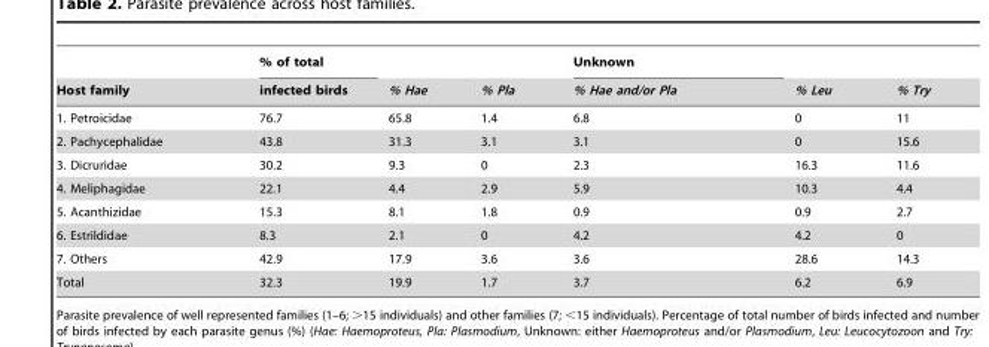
<table><thead><tr><td rowspan="2">Host family</td><td rowspan="2">% of total infected birds</td><td rowspan="2">% Hae</td><td rowspan="2">% Pla</td><td rowspan="2">Unknown % Hae and/or Pla</td><td rowspan="2">% Leu</td><td rowspan="2">% Try</td></tr><tr></tr></thead><tbody><tr><td>1. Petroicidae</td><td>76.7</td><td>65.8</td><td>1.4</td><td>6.8</td><td>0</td><td>11</td></tr><tr><td>2. Pachycephalidae</td><td>43.8</td><td>31.3</td><td>3.1</td><td>3.1</td><td>0</td><td>15.6</td></tr><tr><td>3. Dicruridae</td><td>30.2</td><td>9.3</td><td>0</td><td>2.3</td><td>16.3</td><td>11.6</td></tr><tr><td>4. Meliphagidae</td><td>22.1</td><td>4.4</td><td>2.9</td><td>5.9</td><td>10.3</td><td>4.4</td></tr><tr><td>5. Acanthizidae</td><td>15.3</td><td>8.1</td><td>1.8</td><td>0.9</td><td>0.9</td><td>2.7</td></tr><tr><td>6. Estrildidae</td><td>8.3</td><td>2.1</td><td>0</td><td>4.2</td><td>4.2</td><td>0</td></tr><tr><td>7. Others</td><td>42.9</td><td>17.9</td><td>3.6</td><td>3.6</td><td>28.6</td><td>14.3</td></tr><tr><td>Total</td><td>32.3</td><td>19.9</td><td>1.7</td><td>3.7</td><td>6.2</td><td>6.9</td></tr></tbody></table>